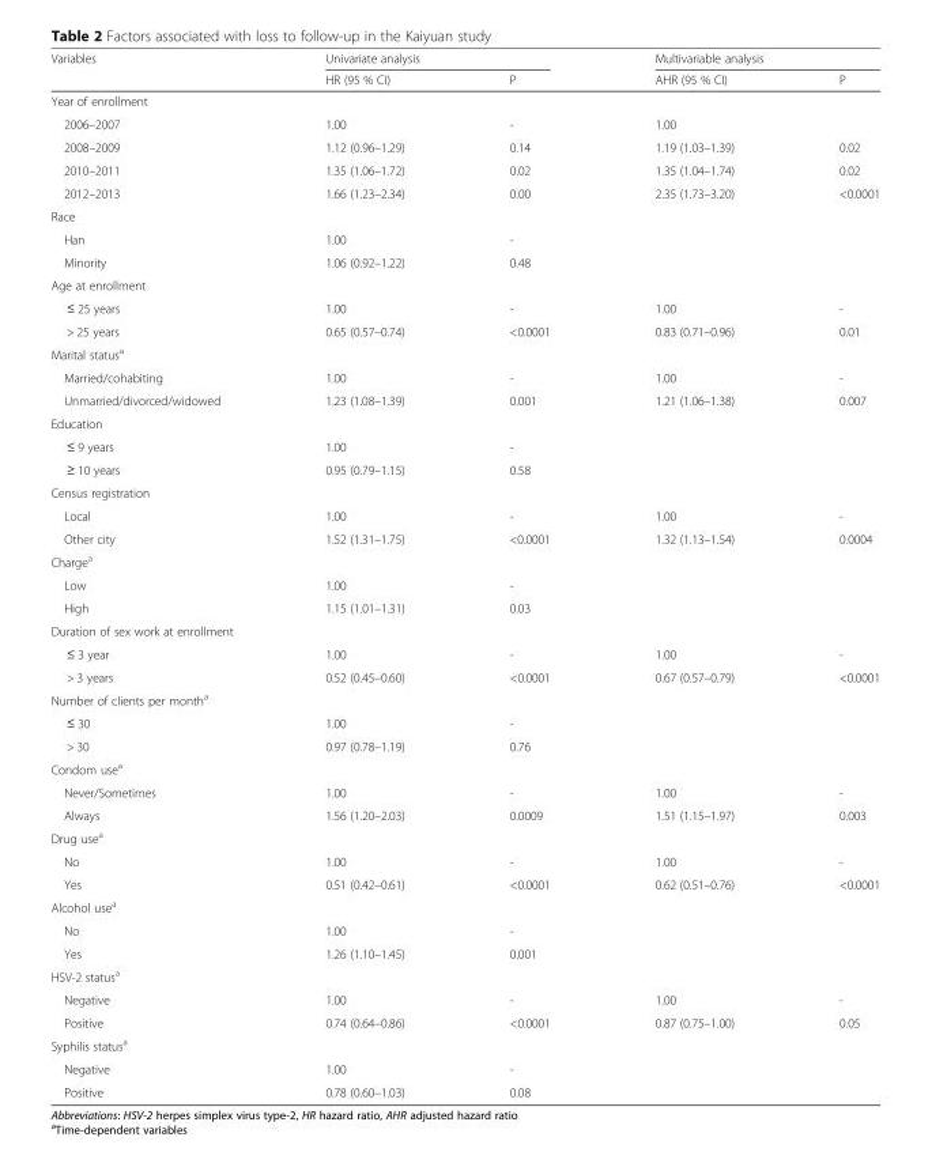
<table><thead><tr><td rowspan="2">Variables</td><td colspan="2">Univariate analysis</td><td colspan="2">Multivariable analysis</td></tr><tr><td>HR (95 % CI)</td><td>P</td><td>AHR (95 % CI)</td><td>P</td></tr></thead><tbody><tr><td colspan="5">Year of enrollment</td></tr><tr><td>2006–2007</td><td>1.00</td><td>-</td><td>1.00</td><td></td></tr><tr><td>2008–2009</td><td>1.12 (0.96–1.29)</td><td>0.14</td><td>1.19 (1.03–1.39)</td><td>0.02</td></tr><tr><td>2010–2011</td><td>1.35 (1.06–1.72)</td><td>0.02</td><td>1.35 (1.04–1.74)</td><td>0.02</td></tr><tr><td>2012–2013</td><td>1.66 (1.23–2.34)</td><td>0.00</td><td>2.35 (1.73–3.20)</td><td>&lt;0.0001</td></tr><tr><td colspan="5">Race</td></tr><tr><td>Han</td><td>1.00</td><td>-</td><td></td><td></td></tr><tr><td>Minority</td><td>1.06 (0.92–1.22)</td><td>0.48</td><td></td><td></td></tr><tr><td colspan="5">Age at enrollment</td></tr><tr><td>≤ 25 years</td><td>1.00</td><td>-</td><td>1.00</td><td>-</td></tr><tr><td>&gt; 25 years</td><td>0.65 (0.57–0.74)</td><td>&lt;0.0001</td><td>0.83 (0.71–0.96)</td><td>0.01</td></tr><tr><td colspan="5">Marital status<sup>a</sup></td></tr><tr><td>Married/cohabiting</td><td>1.00</td><td>-</td><td>1.00</td><td>-</td></tr><tr><td>Unmarried/divorced/widowed</td><td>1.23 (1.08–1.39)</td><td>0.001</td><td>1.21 (1.06–1.38)</td><td>0.007</td></tr><tr><td colspan="5">Education</td></tr><tr><td>≤ 9 years</td><td>1.00</td><td>-</td><td></td><td></td></tr><tr><td>≥ 10 years</td><td>0.95 (0.79–1.15)</td><td>0.58</td><td></td><td></td></tr><tr><td colspan="5">Census registration</td></tr><tr><td>Local</td><td>1.00</td><td>-</td><td>1.00</td><td>-</td></tr><tr><td>Other city</td><td>1.52 (1.31–1.75)</td><td>&lt;0.0001</td><td>1.32 (1.13–1.54)</td><td>0.0004</td></tr><tr><td colspan="5">Charge<sup>a</sup></td></tr><tr><td>Low</td><td>1.00</td><td>-</td><td></td><td></td></tr><tr><td>High</td><td>1.15 (1.01–1.31)</td><td>0.03</td><td></td><td></td></tr><tr><td colspan="5">Duration of sex work at enrollment</td></tr><tr><td>≤ 3 year</td><td>1.00</td><td>-</td><td>1.00</td><td>-</td></tr><tr><td>&gt; 3 years</td><td>0.52 (0.45–0.60)</td><td>&lt;0.0001</td><td>0.67 (0.57–0.79)</td><td>&lt;0.0001</td></tr><tr><td colspan="5">Number of clients per month<sup>a</sup></td></tr><tr><td>≤ 30</td><td>1.00</td><td>-</td><td></td><td></td></tr><tr><td>&gt; 30</td><td>0.97 (0.78–1.19)</td><td>0.76</td><td></td><td></td></tr><tr><td colspan="5">Condom use<sup>a</sup></td></tr><tr><td>Never/Sometimes</td><td>1.00</td><td>-</td><td>1.00</td><td>-</td></tr><tr><td>Always</td><td>1.56 (1.20–2.03)</td><td>0.0009</td><td>1.51 (1.15–1.97)</td><td>0.003</td></tr><tr><td colspan="5">Drug use<sup>a</sup></td></tr><tr><td>No</td><td>1.00</td><td>-</td><td>1.00</td><td>-</td></tr><tr><td>Yes</td><td>0.51 (0.42–0.61)</td><td>&lt;0.0001</td><td>0.62 (0.51–0.76)</td><td>&lt;0.0001</td></tr><tr><td colspan="5">Alcohol use<sup>a</sup></td></tr><tr><td>No</td><td>1.00</td><td>-</td><td></td><td></td></tr><tr><td>Yes</td><td>1.26 (1.10–1.45)</td><td>0.001</td><td></td><td></td></tr><tr><td colspan="5">HSV-2 status<sup>a</sup></td></tr><tr><td>Negative</td><td>1.00</td><td>-</td><td>1.00</td><td>-</td></tr><tr><td>Positive</td><td>0.74 (0.64–0.86)</td><td>&lt;0.0001</td><td>0.87 (0.75–1.00)</td><td>0.05</td></tr><tr><td colspan="5">Syphilis status<sup>a</sup></td></tr><tr><td>Negative</td><td>1.00</td><td>-</td><td></td><td></td></tr><tr><td>Positive</td><td>0.78 (0.60–1.03)</td><td>0.08</td><td></td><td></td></tr></tbody></table>